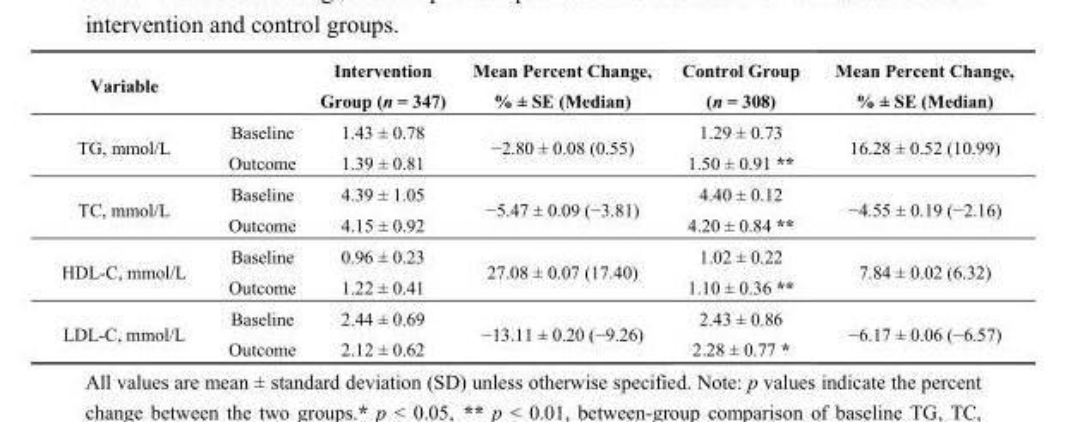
<table><thead><tr><td>Variable</td><td></td><td>Intervention Group (n = 347)</td><td>Mean Percent Change, % ± SE (Median)</td><td>Control Group (n = 308)</td><td>Mean Percent Change, % ± SE (Median)</td></tr></thead><tbody><tr><td rowspan="2">TG, mmol/L</td><td>Baseline</td><td>1.43 ± 0.78</td><td rowspan="2">−2.80 ± 0.08 (0.55)</td><td>1.29 ± 0.73</td><td rowspan="2">16.28 ± 0.52 (10.99)</td></tr><tr><td>Outcome</td><td>1.39 ± 0.81</td><td>1.50 ± 0.91 **</td></tr><tr><td rowspan="2">TC, mmol/L</td><td>Baseline</td><td>4.39 ± 1.05</td><td rowspan="2">−5.47 ± 0.09 (−3.81)</td><td>4.40 ± 0.12</td><td rowspan="2">−4.55 ± 0.19 (−2.16)</td></tr><tr><td>Outcome</td><td>4.15 ± 0.92</td><td>4.20 ± 0.84 **</td></tr><tr><td rowspan="2">HDL-C, mmol/L</td><td>Baseline</td><td>0.96 ± 0.23</td><td rowspan="2">27.08 ± 0.07 (17.40)</td><td>1.02 ± 0.22</td><td rowspan="2">7.84 ± 0.02 (6.32)</td></tr><tr><td>Outcome</td><td>1.22 ± 0.41</td><td>1.10 ± 0.36 **</td></tr><tr><td rowspan="2">LDL-C, mmol/L</td><td>Baseline</td><td>2.44 ± 0.69</td><td rowspan="2">−13.11 ± 0.20 (−9.26)</td><td>2.43 ± 0.86</td><td rowspan="2">−6.17 ± 0.06 (−6.57)</td></tr><tr><td>Outcome</td><td>2.12 ± 0.62</td><td>2.28 ± 0.77 *</td></tr></tbody></table>